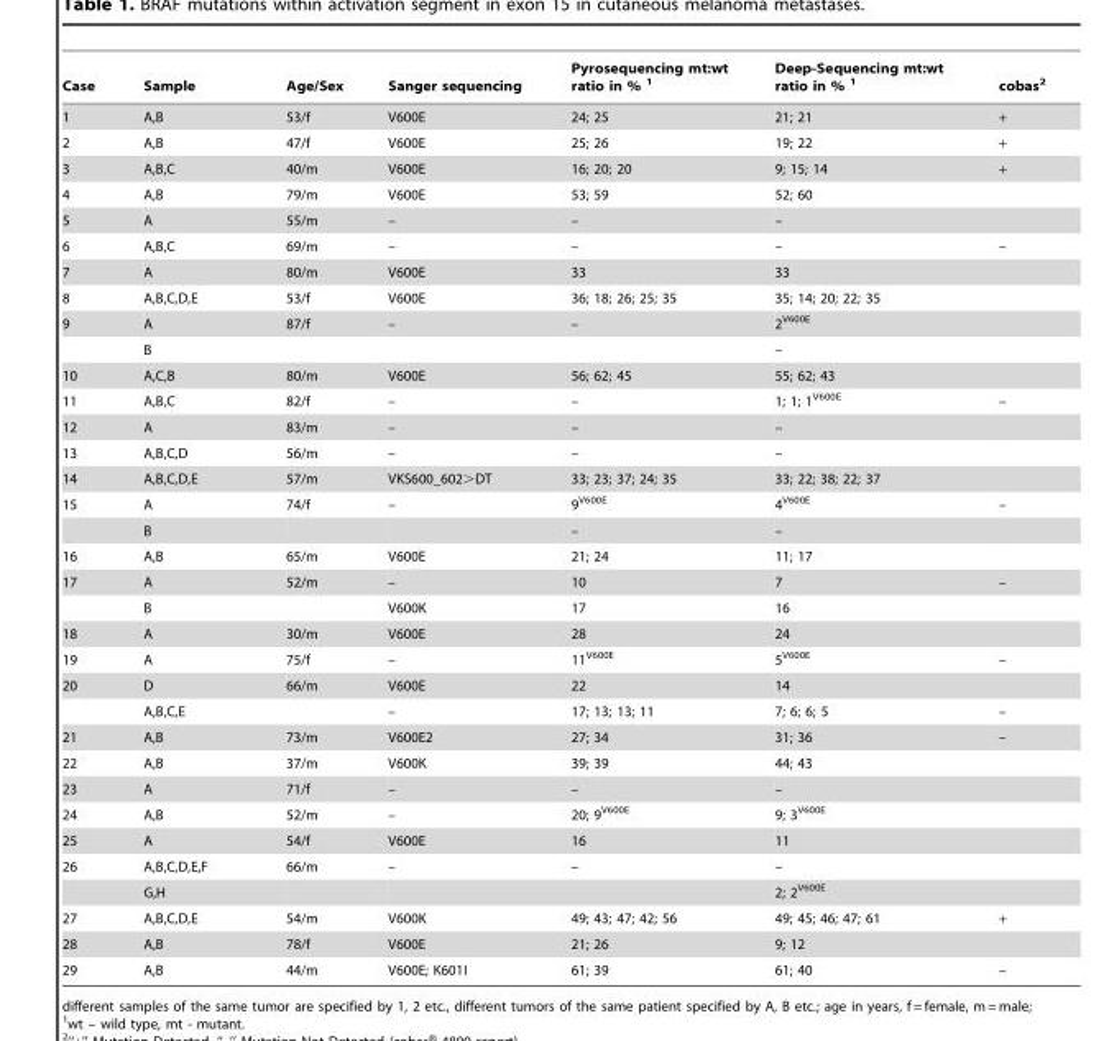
<table><thead><tr><td>Case</td><td>Sample</td><td>Age/Sex</td><td>Sanger sequencing</td><td>Pyrosequencing mt:wt ratio in % 1</td><td>Deep-Sequencing mt:wt ratio in % 1</td><td>cobas<sup>2</sup></td></tr></thead><tbody><tr><td>1</td><td>A,B</td><td>53/f</td><td>V600E</td><td>24; 25</td><td>21; 21</td><td>+</td></tr><tr><td>2</td><td>A,B</td><td>47/f</td><td>V600E</td><td>25; 26</td><td>19; 22</td><td>+</td></tr><tr><td>3</td><td>A,B,C</td><td>40/m</td><td>V600E</td><td>16; 20; 20</td><td>9; 15; 14</td><td>+</td></tr><tr><td>4</td><td>A,B</td><td>79/m</td><td>V600E</td><td>53; 59</td><td>52; 60</td><td></td></tr><tr><td>5</td><td>A</td><td>55/m</td><td>–</td><td>–</td><td>–</td><td></td></tr><tr><td>6</td><td>A,B,C</td><td>69/m</td><td>–</td><td>–</td><td>–</td><td>–</td></tr><tr><td>7</td><td>A</td><td>80/m</td><td>V600E</td><td>33</td><td>33</td><td></td></tr><tr><td>8</td><td>A,B,C,D,E</td><td>53/f</td><td>V600E</td><td>36; 18; 26; 25; 35</td><td>35; 14; 20; 22; 35</td><td></td></tr><tr><td rowspan="2">9</td><td>A</td><td>87/f</td><td>–</td><td>–</td><td>2<sup>V600E</sup></td><td></td></tr><tr><td>B</td><td></td><td></td><td></td><td>–</td><td></td></tr><tr><td>10</td><td>A,C,B</td><td>80/m</td><td>V600E</td><td>56; 62; 45</td><td>55; 62; 43</td><td></td></tr><tr><td>11</td><td>A,B,C</td><td>82/f</td><td>–</td><td>–</td><td>1; 1; 1<sup>V600E</sup></td><td>–</td></tr><tr><td>12</td><td>A</td><td>83/m</td><td>–</td><td>–</td><td>–</td><td></td></tr><tr><td>13</td><td>A,B,C,D</td><td>56/m</td><td>–</td><td>–</td><td>–</td><td></td></tr><tr><td>14</td><td>A,B,C,D,E</td><td>57/m</td><td>VKS600_602&gt;DT</td><td>33; 23; 37; 24; 35</td><td>33; 22; 38; 22; 37</td><td></td></tr><tr><td rowspan="2">15</td><td>A</td><td>74/f</td><td>–</td><td>9<sup>V600E</sup></td><td>4<sup>V600E</sup></td><td>–</td></tr><tr><td>B</td><td></td><td></td><td>–</td><td>–</td><td></td></tr><tr><td>16</td><td>A,B</td><td>65/m</td><td>V600E</td><td>21; 24</td><td>11; 17</td><td></td></tr><tr><td rowspan="2">17</td><td>A</td><td>52/m</td><td>–</td><td>10</td><td>7</td><td>–</td></tr><tr><td>B</td><td></td><td>V600K</td><td>17</td><td>16</td><td></td></tr><tr><td>18</td><td>A</td><td>30/m</td><td>V600E</td><td>28</td><td>24</td><td></td></tr><tr><td>19</td><td>A</td><td>75/f</td><td>–</td><td>11<sup>V600E</sup></td><td>5<sup>V600E</sup></td><td>–</td></tr><tr><td rowspan="2">20</td><td>D</td><td>66/m</td><td>V600E</td><td>22</td><td>14</td><td></td></tr><tr><td>A,B,C,E</td><td></td><td>–</td><td>17; 13; 13; 11</td><td>7; 6; 6; 5</td><td>–</td></tr><tr><td>21</td><td>A,B</td><td>73/m</td><td>V600E2</td><td>27; 34</td><td>31; 36</td><td>–</td></tr><tr><td>22</td><td>A,B</td><td>37/m</td><td>V600K</td><td>39; 39</td><td>44; 43</td><td></td></tr><tr><td>23</td><td>A</td><td>71/f</td><td>–</td><td>–</td><td>–</td><td></td></tr><tr><td>24</td><td>A,B</td><td>52/m</td><td>–</td><td>20; 9<sup>V600E</sup></td><td>9; 3<sup>V600E</sup></td><td></td></tr><tr><td>25</td><td>A</td><td>54/f</td><td>V600E</td><td>16</td><td>11</td><td></td></tr><tr><td rowspan="2">26</td><td>A,B,C,D,E,F</td><td>66/m</td><td>–</td><td>–</td><td>–</td><td></td></tr><tr><td>G,H</td><td></td><td></td><td></td><td>2; 2<sup>V600E</sup></td><td></td></tr><tr><td>27</td><td>A,B,C,D,E</td><td>54/m</td><td>V600K</td><td>49; 43; 47; 42; 56</td><td>49; 45; 46; 47; 61</td><td>+</td></tr><tr><td>28</td><td>A,B</td><td>78/f</td><td>V600E</td><td>21; 26</td><td>9; 12</td><td></td></tr><tr><td>29</td><td>A,B</td><td>44/m</td><td>V600E; K601I</td><td>61; 39</td><td>61; 40</td><td>–</td></tr></tbody></table>